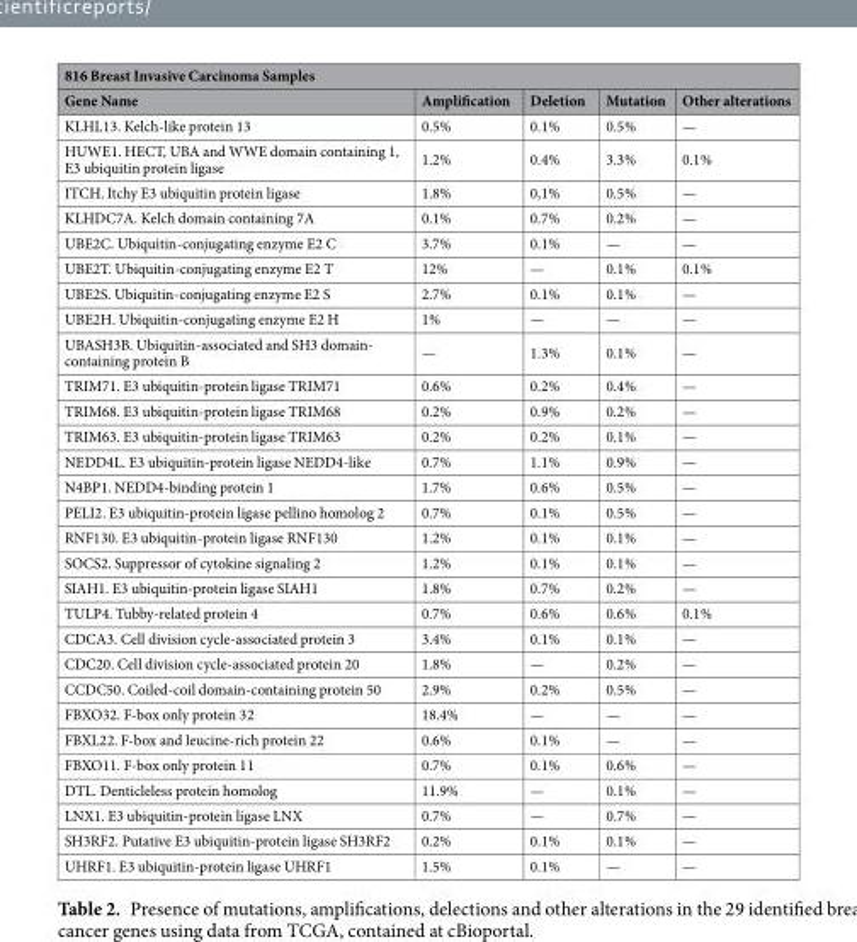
<table><thead><tr><td colspan="5">816 Breast Invasive Carcinoma Samples</td></tr><tr><td>Gene Name</td><td>Amplification</td><td>Deletion</td><td>Mutation</td><td>Other alterations</td></tr></thead><tbody><tr><td>KLHL13. Kelch-like protein 13</td><td>0.5%</td><td>0.1%</td><td>0.5%</td><td>—</td></tr><tr><td>HUWE1. HECT, UBA and WWE domain containing 1, E3 ubiquitin protein ligase</td><td>1.2%</td><td>0.4%</td><td>3.3%</td><td>0.1%</td></tr><tr><td>ITCH. Itchy E3 ubiquitin protein ligase</td><td>1.8%</td><td>0,1%</td><td>0.5%</td><td>—</td></tr><tr><td>KLHDC7A. Kelch domain containing 7A</td><td>0.1%</td><td>0.7%</td><td>0.2%</td><td>—</td></tr><tr><td>UBE2C. Ubiquitin-conjugating enzyme E2 C</td><td>3.7%</td><td>0.1%</td><td>—</td><td>—</td></tr><tr><td>UBE2T. Ubiquitin-conjugating enzyme E2 T</td><td>12%</td><td>—</td><td>0.1%</td><td>0.1%</td></tr><tr><td>UBE2S. Ubiquitin-conjugating enzyme E2 S</td><td>2.7%</td><td>0.1%</td><td>0.1%</td><td>—</td></tr><tr><td>UBE2H. Ubiquitin-conjugating enzyme E2 H</td><td>1%</td><td>—</td><td>—</td><td>—</td></tr><tr><td>UBASH3B. Ubiquitin-associated and SH3 domain- containing protein B</td><td>—</td><td>1.3%</td><td>0.1%</td><td>—</td></tr><tr><td>TRIM71. E3 ubiquitin-protein ligase TRIM71</td><td>0.6%</td><td>0.2%</td><td>0.4%</td><td>—</td></tr><tr><td>TRIM68. E3 ubiquitin-protein ligase TRIM68</td><td>0.2%</td><td>0.9%</td><td>0.2%</td><td>—</td></tr><tr><td>TRIM63. E3 ubiquitin-protein ligase TRIM63</td><td>0.2%</td><td>0.2%</td><td>0.1%</td><td>—</td></tr><tr><td>NEDD4L. E3 ubiquitin-protein ligase NEDD4-like</td><td>0.7%</td><td>1.1%</td><td>0.9%</td><td>—</td></tr><tr><td>N4BP1. NEDD4-binding protein 1</td><td>1.7%</td><td>0.6%</td><td>0.5%</td><td>—</td></tr><tr><td>PELI2. E3 ubiquitin-protein ligase pellino homolog 2</td><td>0.7%</td><td>0.1%</td><td>0.5%</td><td>—</td></tr><tr><td>RNF130. E3 ubiquitin-protein ligase RNF130</td><td>1.2%</td><td>0.1%</td><td>0.1%</td><td>—</td></tr><tr><td>SOCS2. Suppressor of cytokine signaling 2</td><td>1.2%</td><td>0.1%</td><td>0.1%</td><td>—</td></tr><tr><td>SIAH1. E3 ubiquitin-protein ligase SIAH1</td><td>1.8%</td><td>0.7%</td><td>0.2%</td><td>—</td></tr><tr><td>TULP4. Tubby-related protein 4</td><td>0.7%</td><td>0.6%</td><td>0.6%</td><td>0.1%</td></tr><tr><td>CDCA3. Cell division cycle-associated protein 3</td><td>3.4%</td><td>0.1%</td><td>0.1%</td><td>—</td></tr><tr><td>CDC20. Cell division cycle-associated protein 20</td><td>1.8%</td><td>—</td><td>0.2%</td><td>—</td></tr><tr><td>CCDC50. Coiled-coil domain-containing protein 50</td><td>2.9%</td><td>0.2%</td><td>0.5%</td><td>—</td></tr><tr><td>FBXO32. F-box only protein 32</td><td>18.4%</td><td>—</td><td>—</td><td>—</td></tr><tr><td>FBXL22. F-box and leucine-rich protein 22</td><td>0.6%</td><td>0.1%</td><td>—</td><td>—</td></tr><tr><td>FBXO11. F-box only protein 11</td><td>0.7%</td><td>0.1%</td><td>0.6%</td><td>—</td></tr><tr><td>DTL. Denticleless protein homolog</td><td>11.9%</td><td>—</td><td>0.1%</td><td>—</td></tr><tr><td>LNX1. E3 ubiquitin-protein ligase LNX</td><td>0.7%</td><td>—</td><td>0.7%</td><td>—</td></tr><tr><td>SH3RF2. Putative E3 ubiquitin-protein ligase SH3RF2</td><td>0.2%</td><td>0.1%</td><td>0.1%</td><td>—</td></tr><tr><td>UHRF1. E3 ubiquitin-protein ligase UHRF1</td><td>1.5%</td><td>0.1%</td><td>—</td><td>—</td></tr></tbody></table>